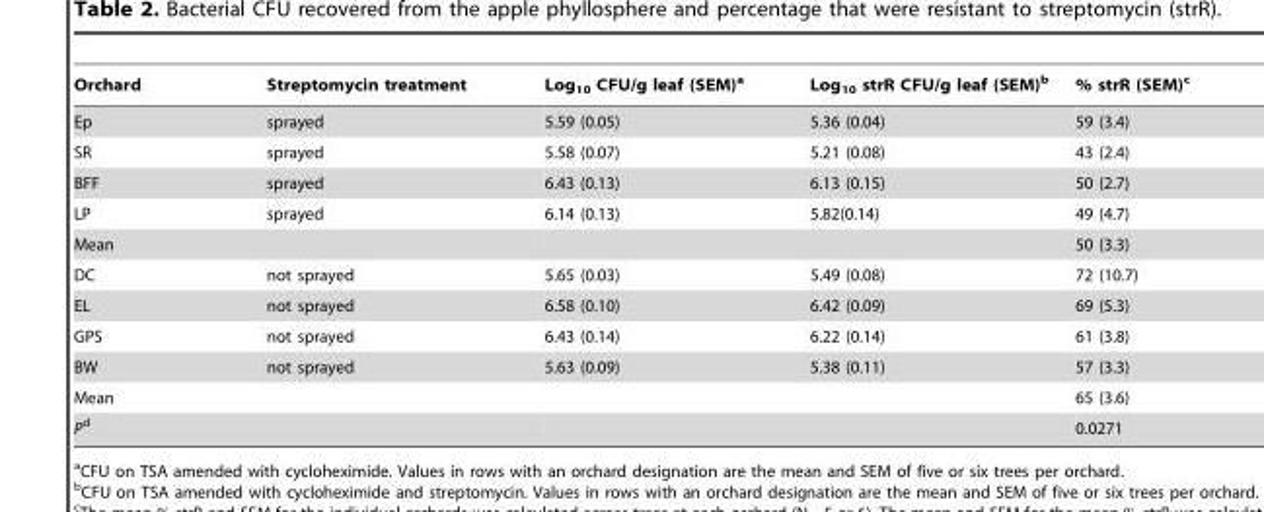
<table><thead><tr><td>Orchard</td><td>Streptomycin treatment</td><td>Log<sub>10</sub> CFU/g leaf (SEM)<sup>a</sup></td><td>Log<sub>10</sub> strR CFU/g leaf (SEM)<sup>b</sup></td><td>% strR (SEM)<sup>c</sup></td></tr></thead><tbody><tr><td>Ep</td><td>sprayed</td><td>5.59 (0.05)</td><td>5.36 (0.04)</td><td>59 (3.4)</td></tr><tr><td>SR</td><td>sprayed</td><td>5.58 (0.07)</td><td>5.21 (0.08)</td><td>43 (2.4)</td></tr><tr><td>BFF</td><td>sprayed</td><td>6.43 (0.13)</td><td>6.13 (0.15)</td><td>50 (2.7)</td></tr><tr><td>LP</td><td>sprayed</td><td>6.14 (0.13)</td><td>5.82(0.14)</td><td>49 (4.7)</td></tr><tr><td>Mean</td><td></td><td></td><td></td><td>50 (3.3)</td></tr><tr><td>DC</td><td>not sprayed</td><td>5.65 (0.03)</td><td>5.49 (0.08)</td><td>72 (10.7)</td></tr><tr><td>EL</td><td>not sprayed</td><td>6.58 (0.10)</td><td>6.42 (0.09)</td><td>69 (5.3)</td></tr><tr><td>GPS</td><td>not sprayed</td><td>6.43 (0.14)</td><td>6.22 (0.14)</td><td>61 (3.8)</td></tr><tr><td>BW</td><td>not sprayed</td><td>5.63 (0.09)</td><td>5.38 (0.11)</td><td>57 (3.3)</td></tr><tr><td>Mean</td><td></td><td></td><td></td><td>65 (3.6)</td></tr><tr><td>Pd</td><td></td><td></td><td></td><td>0.0271</td></tr></tbody></table>